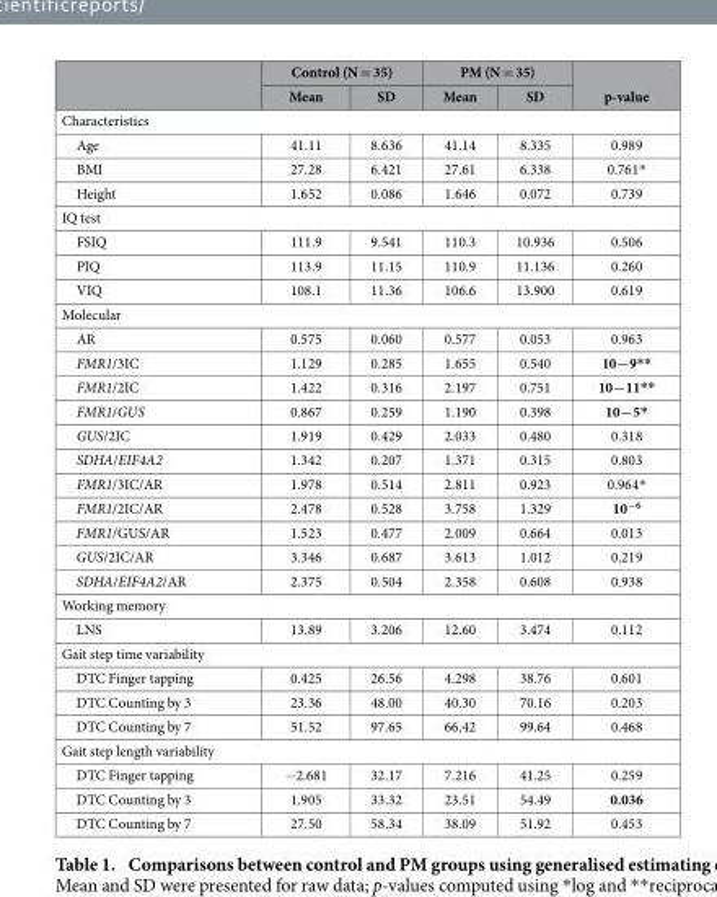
<table><thead><tr><td rowspan="2"></td><td colspan="2">Control (N = 35)</td><td colspan="2">PM (N = 35)</td><td rowspan="2">p-value</td></tr><tr><td>Mean</td><td>SD</td><td>Mean</td><td>SD</td></tr></thead><tbody><tr><td colspan="6">Characteristics</td></tr><tr><td>Age</td><td>41.11</td><td>8.636</td><td>41.14</td><td>8.335</td><td>0.989</td></tr><tr><td>BMI</td><td>27.28</td><td>6.421</td><td>27.61</td><td>6.338</td><td>0.761*</td></tr><tr><td>Height</td><td>1.652</td><td>0.086</td><td>1.646</td><td>0.072</td><td>0.739</td></tr><tr><td colspan="6">IQ test</td></tr><tr><td>FSIQ</td><td>111.9</td><td>9.541</td><td>110.3</td><td>10.936</td><td>0.506</td></tr><tr><td>PIQ</td><td>113.9</td><td>11.15</td><td>110.9</td><td>11.136</td><td>0.260</td></tr><tr><td>VIQ</td><td>108.1</td><td>11.36</td><td>106.6</td><td>13.900</td><td>0.619</td></tr><tr><td colspan="6">Molecular</td></tr><tr><td>AR</td><td>0.575</td><td>0.060</td><td>0.577</td><td>0.053</td><td>0.963</td></tr><tr><td>FMR1/3IC</td><td>1.129</td><td>0.285</td><td>1.655</td><td>0.540</td><td>10−9**</td></tr><tr><td>FMR1/2IC</td><td>1.422</td><td>0.316</td><td>2.197</td><td>0.751</td><td>10−11**</td></tr><tr><td>FMR1/GUS</td><td>0.867</td><td>0.259</td><td>1.190</td><td>0.398</td><td>10−5*</td></tr><tr><td>GUS/2IC</td><td>1.919</td><td>0.429</td><td>2.033</td><td>0.480</td><td>0.318</td></tr><tr><td>SDHA/EIF4A2</td><td>1.342</td><td>0.207</td><td>1.371</td><td>0.315</td><td>0.803</td></tr><tr><td>FMR1/3IC/AR</td><td>1.978</td><td>0.514</td><td>2.811</td><td>0.923</td><td>0.964*</td></tr><tr><td>FMR1/2IC/AR</td><td>2.478</td><td>0.528</td><td>3.758</td><td>1.329</td><td>10<sup>−6</sup></td></tr><tr><td>FMR1/GUS/AR</td><td>1.523</td><td>0.477</td><td>2.009</td><td>0.664</td><td>0.013</td></tr><tr><td>GUS/2IC/AR</td><td>3.346</td><td>0.687</td><td>3.613</td><td>1.012</td><td>0.219</td></tr><tr><td>SDHA/EIF4A2/AR</td><td>2.375</td><td>0.504</td><td>2.358</td><td>0.608</td><td>0.938</td></tr><tr><td colspan="6">Working memory</td></tr><tr><td>LNS</td><td>13.89</td><td>3.206</td><td>12.60</td><td>3.474</td><td>0.112</td></tr><tr><td colspan="6">Gait step time variability</td></tr><tr><td>DTC Finger tapping</td><td>0.425</td><td>26.56</td><td>4.298</td><td>38.76</td><td>0.601</td></tr><tr><td>DTC Counting by 3</td><td>23.36</td><td>48.00</td><td>40.30</td><td>70.16</td><td>0.203</td></tr><tr><td>DTC Counting by 7</td><td>51.52</td><td>97.65</td><td>66.42</td><td>99.64</td><td>0.468</td></tr><tr><td colspan="6">Gait step length variability</td></tr><tr><td>DTC Finger tapping</td><td>− 2.681</td><td>32.17</td><td>7.216</td><td>41.25</td><td>0.259</td></tr><tr><td>DTC Counting by 3</td><td>1.905</td><td>33.32</td><td>23.51</td><td>54.49</td><td>0.036</td></tr><tr><td>DTC Counting by 7</td><td>27.50</td><td>58.34</td><td>38.09</td><td>51.92</td><td>0.453</td></tr></tbody></table>